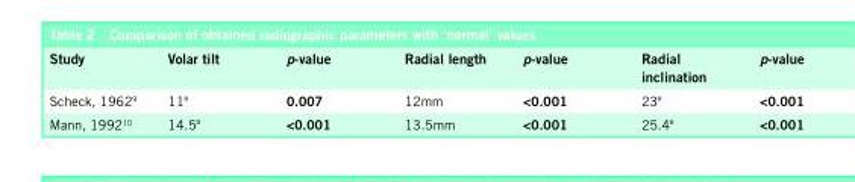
<table><thead><tr><td>Study</td><td>Volar tilt</td><td>p-value</td><td>Radial length</td><td>p-value</td><td>Radial inclination</td><td>p-value</td></tr></thead><tbody><tr><td>Scheck, 1962<sup>9</sup></td><td>11º</td><td>0.007</td><td>12mm</td><td>&lt;0.001</td><td>23º</td><td>&lt;0.001</td></tr><tr><td>Mann, 1992<sup>10</sup></td><td>14.5º</td><td>&lt;0.001</td><td>13.5mm</td><td>&lt;0.001</td><td>25.4º</td><td>&lt;0.001</td></tr></tbody></table>